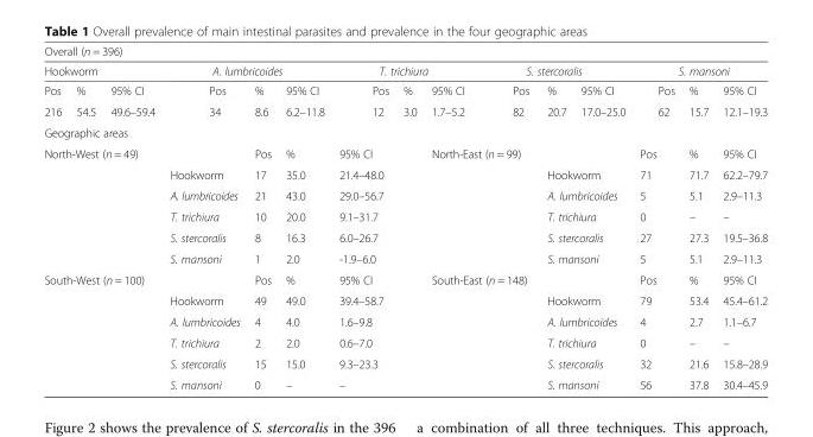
<table><thead><tr><td colspan="15">Overall (n = 396)</td></tr><tr><td colspan="3">Hookworm</td><td colspan="3">A. lumbricoides</td><td colspan="3">T. trichiura</td><td colspan="3">S. stercoralis</td><td colspan="3">S. mansoni</td></tr><tr><td>Pos</td><td>%</td><td>95% CI</td><td>Pos</td><td>%</td><td>95% CI</td><td>Pos</td><td>%</td><td>95% CI</td><td>Pos</td><td>%</td><td>95% CI</td><td>Pos</td><td>%</td><td>95% CI</td></tr></thead><tbody><tr><td>216</td><td>54.5</td><td>49.6–59.4</td><td>34</td><td>8.6</td><td>6.2–11.8</td><td>12</td><td>3.0</td><td>1.7–5.2</td><td>82</td><td>20.7</td><td>17.0–25.0</td><td>62</td><td>15.7</td><td>12.1–19.3</td></tr><tr><td colspan="15">Geographic areas</td></tr><tr><td rowspan="6" colspan="3">North-West (n = 49)</td><td></td><td>Pos</td><td>%</td><td colspan="2">95% CI</td><td rowspan="6" colspan="2">North-East (n = 99)</td><td></td><td></td><td>Pos</td><td>%</td><td>95% CI</td></tr><tr><td>Hookworm</td><td>17</td><td>35.0</td><td colspan="2">21.4–48.0</td><td colspan="2">Hookworm</td><td>71</td><td>71.7</td><td>62.2–79.7</td></tr><tr><td>A. lumbricoides</td><td>21</td><td>43.0</td><td colspan="2">29.0–56.7</td><td colspan="2">A. lumbricoides</td><td>5</td><td>5.1</td><td>2.9–11.3</td></tr><tr><td>T. trichiura</td><td>10</td><td>20.0</td><td colspan="2">9.1–31.7</td><td colspan="2">T. trichiura</td><td>0</td><td>–</td><td>–</td></tr><tr><td>S. stercoralis</td><td>8</td><td>16.3</td><td colspan="2">6.0–26.7</td><td colspan="2">S. stercoralis</td><td>27</td><td>27.3</td><td>19.5–36.8</td></tr><tr><td>S. mansoni</td><td>1</td><td>2.0</td><td colspan="2">-1.9–6.0</td><td colspan="2">S. mansoni</td><td>5</td><td>5.1</td><td>2.9–11.3</td></tr><tr><td rowspan="6" colspan="3">South-West (n = 100)</td><td></td><td>Pos</td><td>%</td><td colspan="2">95% CI</td><td rowspan="6" colspan="2">South-East (n = 148)</td><td></td><td></td><td>Pos</td><td>%</td><td>95% CI</td></tr><tr><td>Hookworm</td><td>49</td><td>49.0</td><td colspan="2">39.4–58.7</td><td colspan="2">Hookworm</td><td>79</td><td>53.4</td><td>45.4–61.2</td></tr><tr><td>A. lumbricoides</td><td>4</td><td>4.0</td><td colspan="2">1.6–9.8</td><td colspan="2">A. lumbricoides</td><td>4</td><td>2.7</td><td>1.1–6.7</td></tr><tr><td>T. trichiura</td><td>2</td><td>2.0</td><td colspan="2">0.6–7.0</td><td colspan="2">T. trichiura</td><td>0</td><td>–</td><td>–</td></tr><tr><td>S. stercoralis</td><td>15</td><td>15.0</td><td colspan="2">9.3–23.3</td><td colspan="2">S. stercoralis</td><td>32</td><td>21.6</td><td>15.8–28.9</td></tr><tr><td>S. mansoni</td><td>0</td><td>–</td><td colspan="2">–</td><td colspan="2">S. mansoni</td><td>56</td><td>37.8</td><td>30.4–45.9</td></tr></tbody></table>